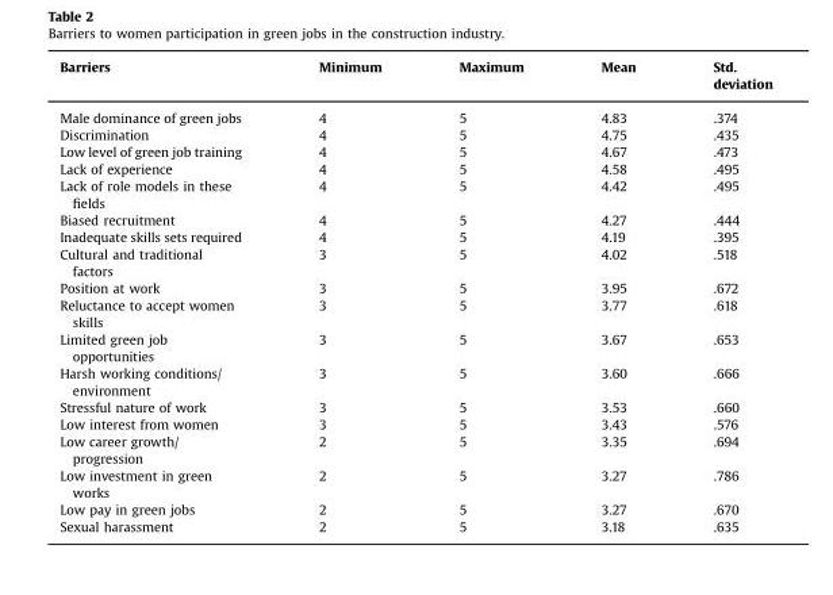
<table><thead><tr><td>Barriers</td><td>Minimum</td><td>Maximum</td><td>Mean</td><td>Std. deviation</td></tr></thead><tbody><tr><td>Male dominance of green jobs</td><td>4</td><td>5</td><td>4.83</td><td>.374</td></tr><tr><td>Discrimination</td><td>4</td><td>5</td><td>4.75</td><td>.435</td></tr><tr><td>Low level of green job training</td><td>4</td><td>5</td><td>4.67</td><td>.473</td></tr><tr><td>Lack of experience</td><td>4</td><td>5</td><td>4.58</td><td>.495</td></tr><tr><td>Lack of role models in these fields</td><td>4</td><td>5</td><td>4.42</td><td>.495</td></tr><tr><td>Biased recruitment</td><td>4</td><td>5</td><td>4.27</td><td>.444</td></tr><tr><td>Inadequate skills sets required</td><td>4</td><td>5</td><td>4.19</td><td>.395</td></tr><tr><td>Cultural and traditional factors</td><td>3</td><td>5</td><td>4.02</td><td>.518</td></tr><tr><td>Position at work</td><td>3</td><td>5</td><td>3.95</td><td>.672</td></tr><tr><td>Reluctance to accept women skills</td><td>3</td><td>5</td><td>3.77</td><td>.618</td></tr><tr><td>Limited green job opportunities</td><td>3</td><td>5</td><td>3.67</td><td>.653</td></tr><tr><td>Harsh working conditions/ environment</td><td>3</td><td>5</td><td>3.60</td><td>.666</td></tr><tr><td>Stressful nature of work</td><td>3</td><td>5</td><td>3.53</td><td>.660</td></tr><tr><td>Low interest from women</td><td>3</td><td>5</td><td>3.43</td><td>.576</td></tr><tr><td>Low career growth/ progression</td><td>2</td><td>5</td><td>3.35</td><td>.694</td></tr><tr><td>Low investment in green works</td><td>2</td><td>5</td><td>3.27</td><td>.786</td></tr><tr><td>Low pay in green jobs</td><td>2</td><td>5</td><td>3.27</td><td>.670</td></tr><tr><td>Sexual harassment</td><td>2</td><td>5</td><td>3.18</td><td>.635</td></tr></tbody></table>